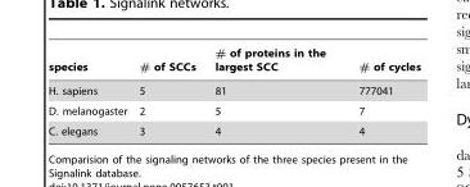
<table><thead><tr><td>species</td><td># of SCCs</td><td># of proteins in the largest SCC</td><td># of cycles</td></tr></thead><tbody><tr><td>H. sapiens</td><td>5</td><td>81</td><td>777041</td></tr><tr><td>D. melanogaster</td><td>2</td><td>5</td><td>7</td></tr><tr><td>C. elegans</td><td>3</td><td>4</td><td>4</td></tr></tbody></table>